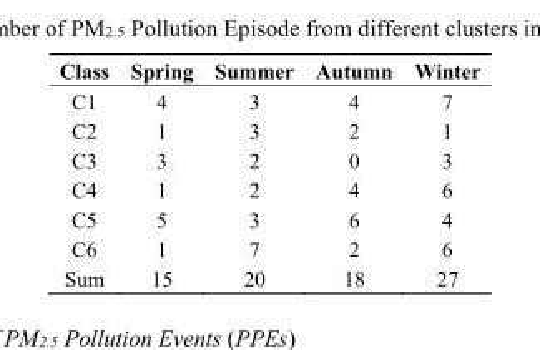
<table><thead><tr><td>Class</td><td>Spring</td><td>Summer</td><td>Autumn</td><td>Winter</td></tr></thead><tbody><tr><td>C1</td><td>4</td><td>3</td><td>4</td><td>7</td></tr><tr><td>C2</td><td>1</td><td>3</td><td>2</td><td>1</td></tr><tr><td>C3</td><td>3</td><td>2</td><td>0</td><td>3</td></tr><tr><td>C4</td><td>1</td><td>2</td><td>4</td><td>6</td></tr><tr><td>C5</td><td>5</td><td>3</td><td>6</td><td>4</td></tr><tr><td>C6</td><td>1</td><td>7</td><td>2</td><td>6</td></tr><tr><td>Sum</td><td>15</td><td>20</td><td>18</td><td>27</td></tr></tbody></table>